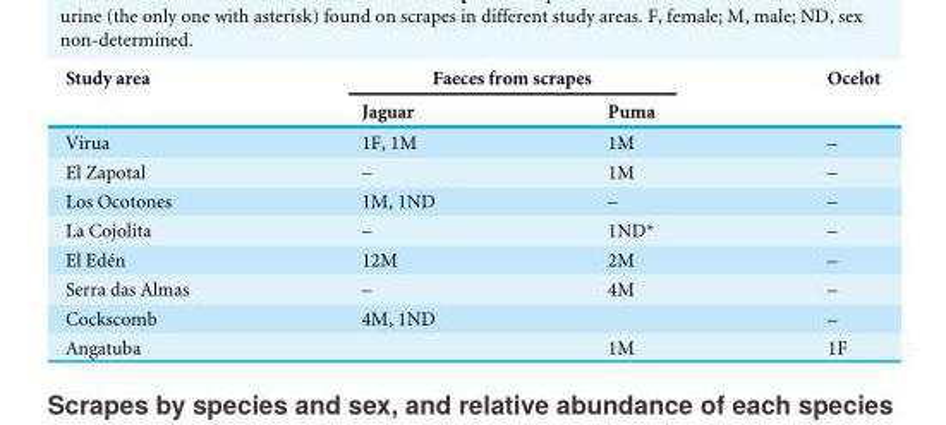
<table><thead><tr><td rowspan="2">Study area</td><td colspan="2">Faeces from scrapes</td><td rowspan="2">Ocelot</td></tr><tr><td>Jaguar</td><td>Puma</td></tr></thead><tbody><tr><td>Virua</td><td>1F, 1M</td><td>1M</td><td>–</td></tr><tr><td>El Zapotal</td><td>–</td><td>1M</td><td>–</td></tr><tr><td>Los Ocotones</td><td>1M, 1ND</td><td>–</td><td>–</td></tr><tr><td>La Cojolita</td><td>–</td><td>1ND*</td><td>–</td></tr><tr><td>El Edén</td><td>12M</td><td>2M</td><td>–</td></tr><tr><td>Serra das Almas</td><td>–</td><td>4M</td><td>–</td></tr><tr><td>Cockscomb</td><td>4M, 1ND</td><td></td><td>–</td></tr><tr><td>Angatuba</td><td></td><td>1M</td><td>1F</td></tr></tbody></table>